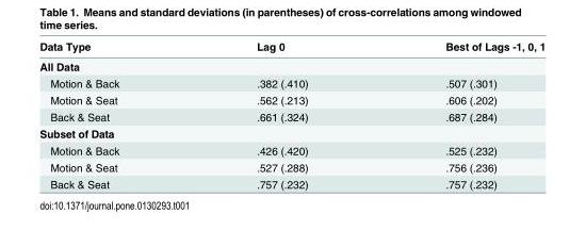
<table><thead><tr><td>Data Type</td><td>Lag 0</td><td>Best of Lags -1, 0, 1</td></tr></thead><tbody><tr><td colspan="3">All Data</td></tr><tr><td>Motion &amp; Back</td><td>.382 (.410)</td><td>.507 (.301)</td></tr><tr><td>Motion &amp; Seat</td><td>.562 (.213)</td><td>.606 (.202)</td></tr><tr><td>Back &amp; Seat</td><td>.661 (.324)</td><td>.687 (.284)</td></tr><tr><td colspan="3">Subset of Data</td></tr><tr><td>Motion &amp; Back</td><td>.426 (.420)</td><td>.525 (.232)</td></tr><tr><td>Motion &amp; Seat</td><td>.527 (.288)</td><td>.756 (.236)</td></tr><tr><td>Back &amp; Seat</td><td>.757 (.232)</td><td>.757 (.232)</td></tr></tbody></table>